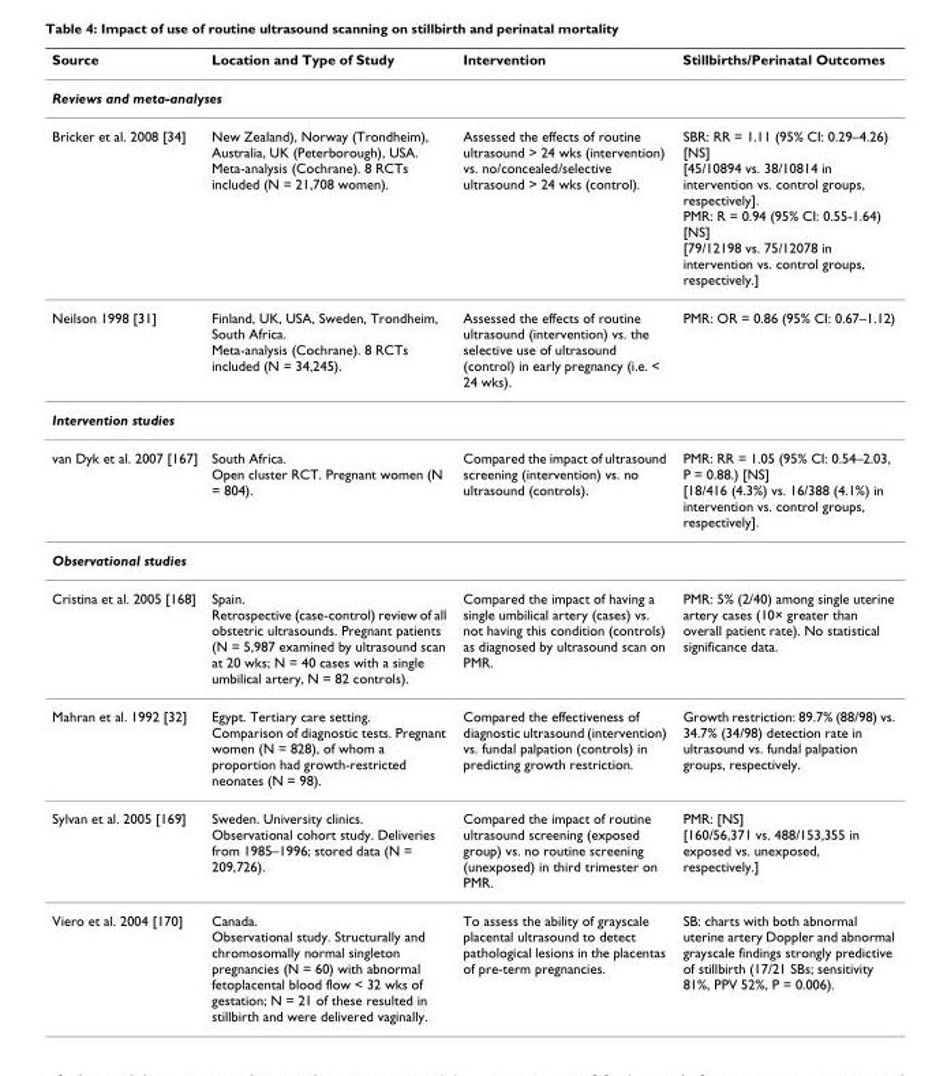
<table><thead><tr><td>Source</td><td>Location and Type of Study</td><td>Intervention</td><td>Stillbirths/Perinatal Outcomes</td></tr></thead><tbody><tr><td colspan="4">Reviews and meta-analyses</td></tr><tr><td>Bricker et al. 2008 [34]</td><td>New Zealand), Norway (Trondheim), Australia, UK (Peterborough), USA. Meta-analysis (Cochrane). 8 RCTs included (N = 21,708 women).</td><td>Assessed the effects of routine ultrasound &gt; 24 wks (intervention) vs. no/concealed/selective ultrasound &gt; 24 wks (control).</td><td>SBR: RR = 1.11 (95% CI: 0.29–4.26) [NS] [45/10894 vs. 38/10814 in intervention vs. control groups, respectively]. PMR: R = 0.94 (95% CI: 0.55-1.64) [NS] [79/12198 vs. 75/12078 in intervention vs. control groups, respectively.]</td></tr><tr><td>Neilson 1998 [31]</td><td>Finland, UK, USA, Sweden, Trondheim, South Africa. Meta-analysis (Cochrane). 8 RCTs included (N = 34,245).</td><td>Assessed the effects of routine ultrasound (intervention) vs. the selective use of ultrasound (control) in early pregnancy (i.e. &lt; 24 wks).</td><td>PMR: OR = 0.86 (95% CI: 0.67–1.12)</td></tr><tr><td colspan="4">Intervention studies</td></tr><tr><td>van Dyk et al. 2007 [167]</td><td>South Africa. Open cluster RCT. Pregnant women (N = 804).</td><td>Compared the impact of ultrasound screening (intervention) vs. no ultrasound (controls).</td><td>PMR: RR = 1.05 (95% CI: 0.54–2.03, P = 0.88.) [NS] [18/416 (4.3%) vs. 16/388 (4.1%) in intervention vs. control groups, respectively].</td></tr><tr><td colspan="4">Observational studies</td></tr><tr><td>Cristina et al. 2005 [168]</td><td>Spain. Retrospective (case-control) review of all obstetric ultrasounds. Pregnant patients (N = 5,987 examined by ultrasound scan at 20 wks; N = 40 cases with a single umbilical artery, N = 82 controls).</td><td>Compared the impact of having a single umbilical artery (cases) vs. not having this condition (controls) as diagnosed by ultrasound scan on PMR.</td><td>PMR: 5% (2/40) among single uterine artery cases (10× greater than overall patient rate). No statistical significance data.</td></tr><tr><td>Mahran et al. 1992 [32]</td><td>Egypt. Tertiary care setting. Comparison of diagnostic tests. Pregnant women (N = 828), of whom a proportion had growth-restricted neonates (N = 98).</td><td>Compared the effectiveness of diagnostic ultrasound (intervention) vs. fundal palpation (controls) in predicting growth restriction.</td><td>Growth restriction: 89.7% (88/98) vs. 34.7% (34/98) detection rate in ultrasound vs. fundal palpation groups, respectively.</td></tr><tr><td>Sylvan et al. 2005 [169]</td><td>Sweden. University clinics. Observational cohort study. Deliveries from 1985–1996; stored data (N = 209,726).</td><td>Compared the impact of routine ultrasound screening (exposed group) vs. no routine screening (unexposed) in third trimester on PMR.</td><td>PMR: [NS] [160/56,371 vs. 488/153,355 in exposed vs. unexposed, respectively.]</td></tr><tr><td>Viero et al. 2004 [170]</td><td>Canada. Observational study. Structurally and chromosomally normal singleton pregnancies (N = 60) with abnormal fetoplacental blood flow &lt; 32 wks of gestation; N = 21 of these resulted in stillbirth and were delivered vaginally.</td><td>To assess the ability of grayscale placental ultrasound to detect pathological lesions in the placentas of pre-term pregnancies.</td><td>SB: charts with both abnormal uterine artery Doppler and abnormal grayscale findings strongly predictive of stillbirth (17/21 SBs; sensitivity 81%, PPV 52%, P = 0.006).</td></tr></tbody></table>